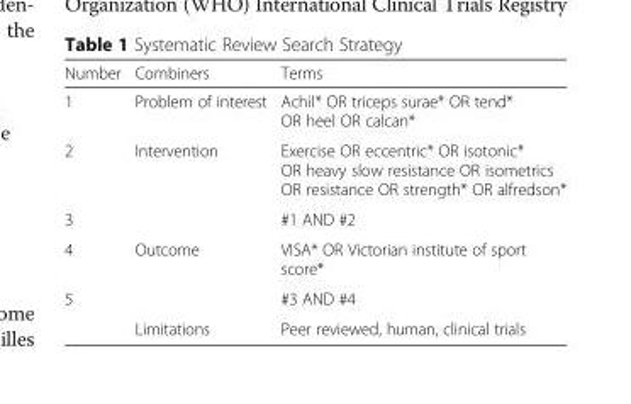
<table><thead><tr><td>Number</td><td>Combiners</td><td>Terms</td></tr></thead><tbody><tr><td>1</td><td>Problem of interest</td><td>Achil* OR triceps surae* OR tend* OR heel OR calcan*</td></tr><tr><td>2</td><td>Intervention</td><td>Exercise OR eccentric* OR isotonic* OR heavy slow resistance OR isometrics OR resistance OR strength* OR alfredson*</td></tr><tr><td>3</td><td></td><td>#1 AND #2</td></tr><tr><td>4</td><td>Outcome</td><td>VISA* OR Victorian institute of sport score*</td></tr><tr><td rowspan="2">5</td><td></td><td>#3 AND #4</td></tr><tr><td>Limitations</td><td>Peer reviewed, human, clinical trials</td></tr></tbody></table>